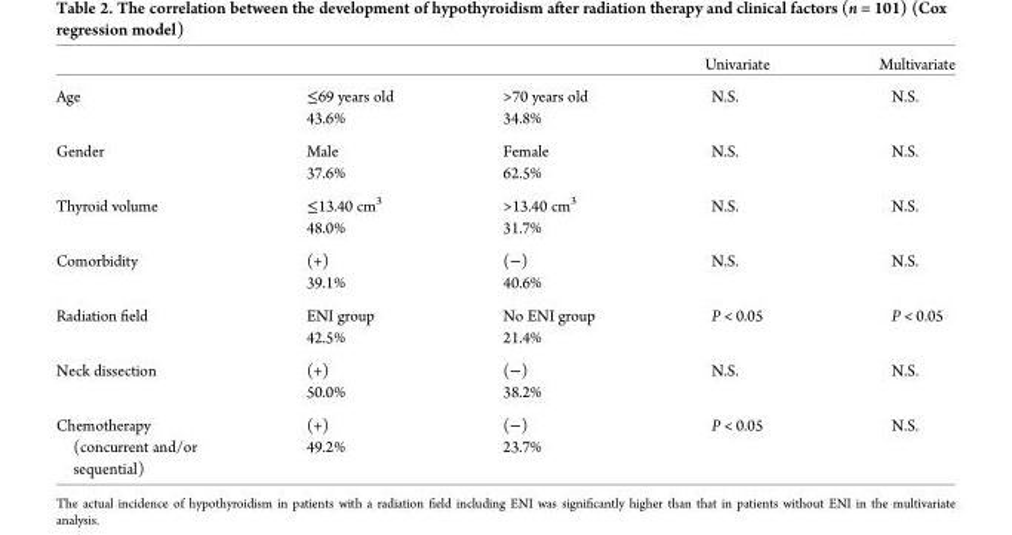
<table><thead><tr><td></td><td></td><td></td><td>Univariate</td><td>Multivariate</td></tr></thead><tbody><tr><td rowspan="2">Age</td><td>≤69 years old</td><td>&gt;70 years old</td><td>N.S.</td><td>N.S.</td></tr><tr><td>43.6%</td><td>34.8%</td><td></td><td></td></tr><tr><td rowspan="2">Gender</td><td>Male</td><td>Female</td><td>N.S.</td><td>N.S.</td></tr><tr><td>37.6%</td><td>62.5%</td><td></td><td></td></tr><tr><td rowspan="2">Thyroid volume</td><td>≤13.40 cm<sup>3</sup></td><td>&gt;13.40 cm<sup>3</sup></td><td>N.S.</td><td>N.S.</td></tr><tr><td>48.0%</td><td>31.7%</td><td></td><td></td></tr><tr><td rowspan="2">Comorbidity</td><td>(+)</td><td>(−)</td><td>N.S.</td><td>N.S.</td></tr><tr><td>39.1%</td><td>40.6%</td><td></td><td></td></tr><tr><td rowspan="2">Radiation field</td><td>ENI group</td><td>No ENI group</td><td>P &lt; 0.05</td><td>P &lt; 0.05</td></tr><tr><td>42.5%</td><td>21.4%</td><td></td><td></td></tr><tr><td rowspan="2">Neck dissection</td><td>(+)</td><td>(−)</td><td>N.S.</td><td>N.S.</td></tr><tr><td>50.0%</td><td>38.2%</td><td></td><td></td></tr><tr><td rowspan="2">Chemotherapy (concurrent and/or sequential)</td><td>(+)</td><td>(−)</td><td>P &lt; 0.05</td><td>N.S.</td></tr><tr><td>49.2%</td><td>23.7%</td><td></td><td></td></tr></tbody></table>